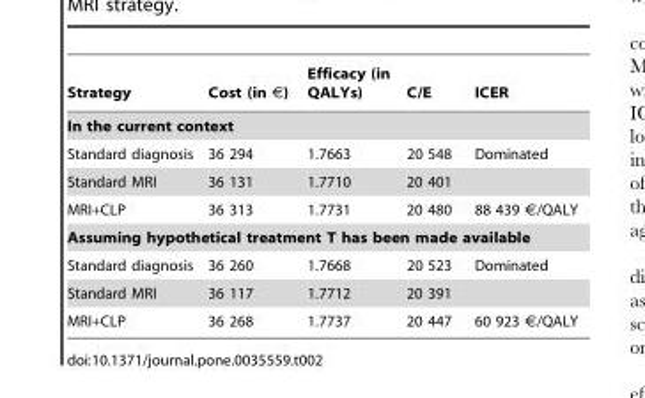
<table><thead><tr><td>Strategy</td><td>Cost (in €)</td><td>Efficacy (in QALYs)</td><td>C/E</td><td>ICER</td></tr></thead><tbody><tr><td colspan="5">In the current context</td></tr><tr><td>Standard diagnosis</td><td>36 294</td><td>1.7663</td><td>20 548</td><td>Dominated</td></tr><tr><td>Standard MRI</td><td>36 131</td><td>1.7710</td><td>20 401</td><td></td></tr><tr><td>MRI+CLP</td><td>36 313</td><td>1.7731</td><td>20 480</td><td>88 439 €/QALY</td></tr><tr><td colspan="5">Assuming hypothetical treatment T has been made available</td></tr><tr><td>Standard diagnosis</td><td>36 260</td><td>1.7668</td><td>20 523</td><td>Dominated</td></tr><tr><td>Standard MRI</td><td>36 117</td><td>1.7712</td><td>20 391</td><td></td></tr><tr><td>MRI+CLP</td><td>36 268</td><td>1.7737</td><td>20 447</td><td>60 923 €/QALY</td></tr></tbody></table>